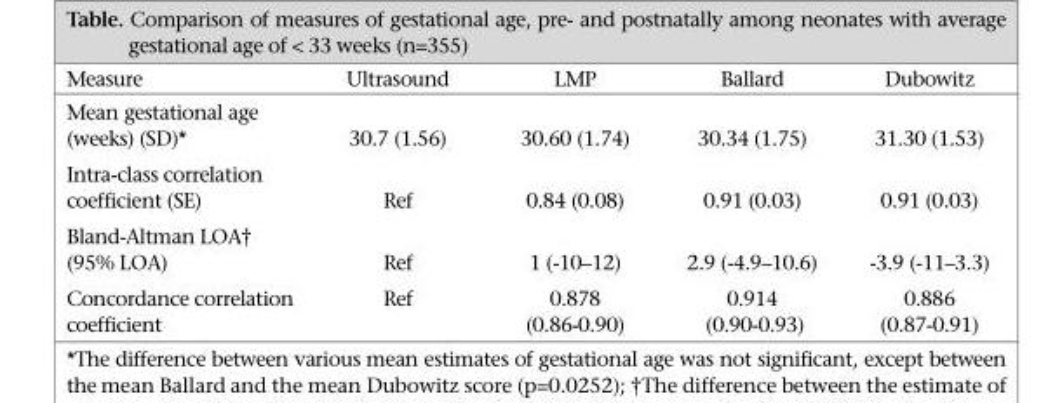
<table><thead><tr><td>Measure</td><td>Ultrasound</td><td>LMP</td><td>Ballard</td><td>Dubowitz</td></tr></thead><tbody><tr><td>Mean gestational age (weeks) (SD)*</td><td>30.7 (1.56)</td><td>30.60 (1.74)</td><td>30.34 (1.75)</td><td>31.30 (1.53)</td></tr><tr><td>Intra-class correlation coefficient (SE)</td><td>Ref</td><td>0.84 (0.08)</td><td>0.91 (0.03)</td><td>0.91 (0.03)</td></tr><tr><td>Bland-Altman LOA† (95% LOA)</td><td>Ref</td><td>1 (-10–12)</td><td>2.9 (-4.9–10.6)</td><td>-3.9 (-11–3.3)</td></tr><tr><td>Concordance correlation</td><td>Ref</td><td>0.878</td><td>0.914</td><td>0.886</td></tr><tr><td>coefficient</td><td></td><td>(0.86-0.90)</td><td>(0.90-0.93)</td><td>(0.87-0.91)</td></tr></tbody></table>